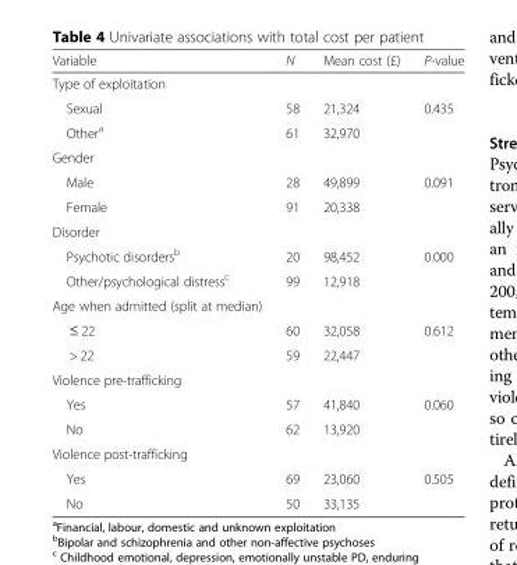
<table><thead><tr><td>Variable</td><td>N</td><td>Mean cost (£)</td><td>P-value</td></tr></thead><tbody><tr><td colspan="4">Type of exploitation</td></tr><tr><td>Sexual</td><td>58</td><td>21,324</td><td>0.435</td></tr><tr><td>Other<sup>a</sup></td><td>61</td><td>32,970</td><td></td></tr><tr><td colspan="4">Gender</td></tr><tr><td>Male</td><td>28</td><td>49,899</td><td>0.091</td></tr><tr><td>Female</td><td>91</td><td>20,338</td><td></td></tr><tr><td colspan="4">Disorder</td></tr><tr><td>Psychotic disorders<sup>b</sup></td><td>20</td><td>98,452</td><td>0.000</td></tr><tr><td>Other/psychological distress<sup>c</sup></td><td>99</td><td>12,918</td><td></td></tr><tr><td colspan="4">Age when admitted (split at median)</td></tr><tr><td>≤ 22</td><td>60</td><td>32,058</td><td>0.612</td></tr><tr><td>&gt; 22</td><td>59</td><td>22,447</td><td></td></tr><tr><td colspan="4">Violence pre-trafficking</td></tr><tr><td>Yes</td><td>57</td><td>41,840</td><td>0.060</td></tr><tr><td>No</td><td>62</td><td>13,920</td><td></td></tr><tr><td colspan="4">Violence post-trafficking</td></tr><tr><td>Yes</td><td>69</td><td>23,060</td><td>0.505</td></tr><tr><td>No</td><td>50</td><td>33,135</td><td></td></tr></tbody></table>